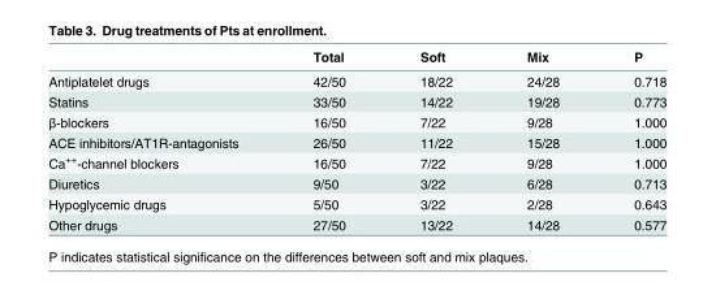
<table><thead><tr><td></td><td>Total</td><td>Soft</td><td>Mix</td><td>P</td></tr></thead><tbody><tr><td>Antiplatelet drugs</td><td>42/50</td><td>18/22</td><td>24/28</td><td>0.718</td></tr><tr><td>Statins</td><td>33/50</td><td>14/22</td><td>19/28</td><td>0.773</td></tr><tr><td>β-blockers</td><td>16/50</td><td>7/22</td><td>9/28</td><td>1.000</td></tr><tr><td>ACE inhibitors/AT1R-antagonists</td><td>26/50</td><td>11/22</td><td>15/28</td><td>1.000</td></tr><tr><td>Ca<sup>++</sup>-channel blockers</td><td>16/50</td><td>7/22</td><td>9/28</td><td>1.000</td></tr><tr><td>Diuretics</td><td>9/50</td><td>3/22</td><td>6/28</td><td>0.713</td></tr><tr><td>Hypoglycemic drugs</td><td>5/50</td><td>3/22</td><td>2/28</td><td>0.643</td></tr><tr><td>Other drugs</td><td>27/50</td><td>13/22</td><td>14/28</td><td>0.577</td></tr></tbody></table>